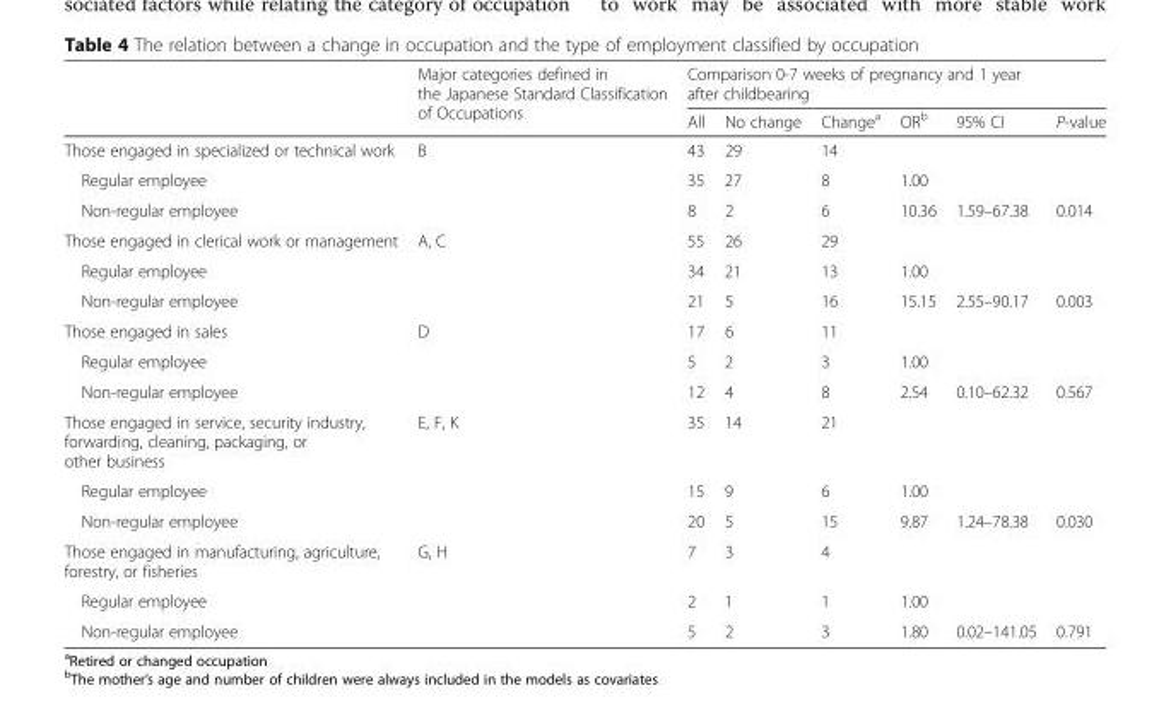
<table><thead><tr><td rowspan="2"></td><td rowspan="2">Major categories defined in the Japanese Standard Classification of Occupations</td><td colspan="6">Comparison 0-7 weeks of pregnancy and 1 year after childbearing</td></tr><tr><td>All</td><td>No change</td><td>Change<sup>a</sup></td><td>OR<sup>b</sup></td><td>95% CI</td><td>P-value</td></tr></thead><tbody><tr><td>Those engaged in specialized or technical work</td><td rowspan="3">B</td><td>43</td><td>29</td><td>14</td><td></td><td></td><td></td></tr><tr><td>Regular employee</td><td>35</td><td>27</td><td>8</td><td>1.00</td><td></td><td></td></tr><tr><td>Non-regular employee</td><td>8</td><td>2</td><td>6</td><td>10.36</td><td>1.59–67.38</td><td>0.014</td></tr><tr><td>Those engaged in clerical work or management</td><td rowspan="3">A, C</td><td>55</td><td>26</td><td>29</td><td></td><td></td><td></td></tr><tr><td>Regular employee</td><td>34</td><td>21</td><td>13</td><td>1.00</td><td></td><td></td></tr><tr><td>Non-regular employee</td><td>21</td><td>5</td><td>16</td><td>15.15</td><td>2.55–90.17</td><td>0.003</td></tr><tr><td>Those engaged in sales</td><td rowspan="3">D</td><td>17</td><td>6</td><td>11</td><td></td><td></td><td></td></tr><tr><td>Regular employee</td><td>5</td><td>2</td><td>3</td><td>1.00</td><td></td><td></td></tr><tr><td>Non-regular employee</td><td>12</td><td>4</td><td>8</td><td>2.54</td><td>0.10–62.32</td><td>0.567</td></tr><tr><td>Those engaged in service, security industry, forwarding, cleaning, packaging, or other business</td><td rowspan="3">E, F, K</td><td>35</td><td>14</td><td>21</td><td></td><td></td><td></td></tr><tr><td>Regular employee</td><td>15</td><td>9</td><td>6</td><td>1.00</td><td></td><td></td></tr><tr><td>Non-regular employee</td><td>20</td><td>5</td><td>15</td><td>9.87</td><td>1.24–78.38</td><td>0.030</td></tr><tr><td>Those engaged in manufacturing, agriculture, forestry, or fisheries</td><td rowspan="3">G, H</td><td>7</td><td>3</td><td>4</td><td></td><td></td><td></td></tr><tr><td>Regular employee</td><td>2</td><td>1</td><td>1</td><td>1.00</td><td></td><td></td></tr><tr><td>Non-regular employee</td><td>5</td><td>2</td><td>3</td><td>1.80</td><td>0.02–141.05</td><td>0.791</td></tr></tbody></table>